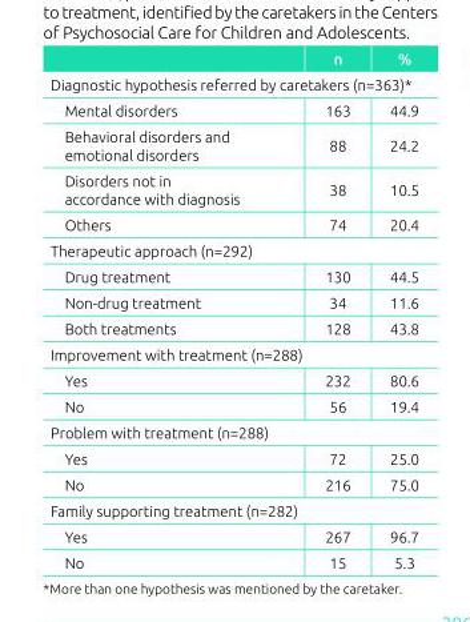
<table><thead><tr><td></td><td>n</td><td>%</td></tr></thead><tbody><tr><td colspan="3">Diagnostic hypothesis referred by caretakers (n=363)*</td></tr><tr><td>Mental disorders</td><td>163</td><td>44.9</td></tr><tr><td>Behavioral disorders and emotional disorders</td><td>88</td><td>24.2</td></tr><tr><td>Disorders not in accordance with diagnosis</td><td>38</td><td>10.5</td></tr><tr><td>Others</td><td>74</td><td>20.4</td></tr><tr><td colspan="3">Therapeutic approach (n=292)</td></tr><tr><td>Drug treatment</td><td>130</td><td>44.5</td></tr><tr><td>Non‑drug treatment</td><td>34</td><td>11.6</td></tr><tr><td>Both treatments</td><td>128</td><td>43.8</td></tr><tr><td colspan="3">Improvement with treatment (n=288)</td></tr><tr><td>Yes</td><td>232</td><td>80.6</td></tr><tr><td>No</td><td>56</td><td>19.4</td></tr><tr><td colspan="3">Problem with treatment (n=288)</td></tr><tr><td>Yes</td><td>72</td><td>25.0</td></tr><tr><td>No</td><td>216</td><td>75.0</td></tr><tr><td colspan="3">Family supporting treatment (n=282)</td></tr><tr><td>Yes</td><td>267</td><td>96.7</td></tr><tr><td>No</td><td>15</td><td>5.3</td></tr></tbody></table>